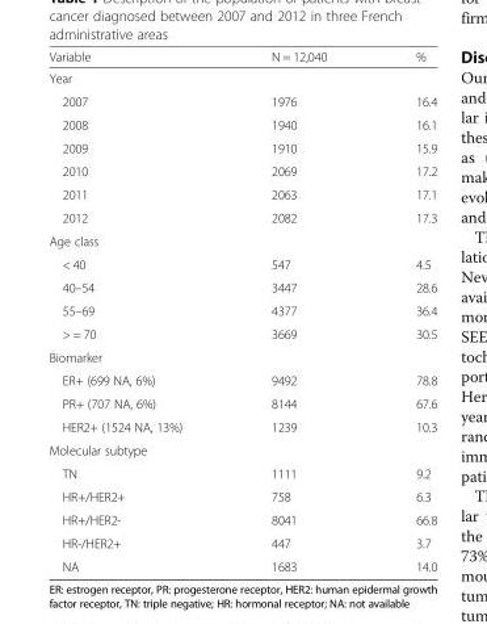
<table><thead><tr><td>Variable</td><td>N = 12,040</td><td>%</td></tr></thead><tbody><tr><td colspan="3">Year</td></tr><tr><td>2007</td><td>1976</td><td>16.4</td></tr><tr><td>2008</td><td>1940</td><td>16.1</td></tr><tr><td>2009</td><td>1910</td><td>15.9</td></tr><tr><td>2010</td><td>2069</td><td>17.2</td></tr><tr><td>2011</td><td>2063</td><td>17.1</td></tr><tr><td>2012</td><td>2082</td><td>17.3</td></tr><tr><td colspan="3">Age class</td></tr><tr><td>&lt; 40</td><td>547</td><td>4.5</td></tr><tr><td>40–54</td><td>3447</td><td>28.6</td></tr><tr><td>55–69</td><td>4377</td><td>36.4</td></tr><tr><td>&gt; = 70</td><td>3669</td><td>30.5</td></tr><tr><td colspan="3">Biomarker</td></tr><tr><td>ER+ (699 NA, 6%)</td><td>9492</td><td>78.8</td></tr><tr><td>PR+ (707 NA, 6%)</td><td>8144</td><td>67.6</td></tr><tr><td>HER2+ (1524 NA, 13%)</td><td>1239</td><td>10.3</td></tr><tr><td colspan="3">Molecular subtype</td></tr><tr><td>TN</td><td>1111</td><td>9.2</td></tr><tr><td>HR+/HER2+</td><td>758</td><td>6.3</td></tr><tr><td>HR+/HER2-</td><td>8041</td><td>66.8</td></tr><tr><td>HR-/HER2+</td><td>447</td><td>3.7</td></tr><tr><td>NA</td><td>1683</td><td>14.0</td></tr></tbody></table>